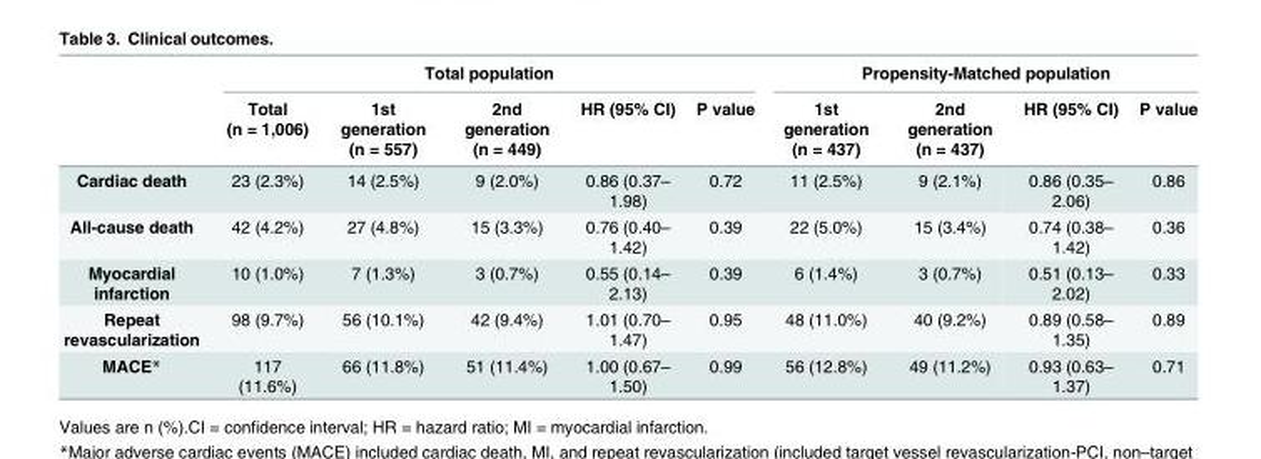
<table><thead><tr><td rowspan="2"></td><td colspan="5">Total population</td><td colspan="4">Propensity-Matched population</td></tr><tr><td>Total (n = 1,006)</td><td>1st generation (n = 557)</td><td>2nd generation (n = 449)</td><td>HR (95% CI)</td><td>P value</td><td>1st generation (n = 437)</td><td>2nd generation (n = 437)</td><td>HR (95% CI)</td><td>P value</td></tr></thead><tbody><tr><td>Cardiac death</td><td>23 (2.3%)</td><td>14 (2.5%)</td><td>9 (2.0%)</td><td>0.86 (0.37– 1.98)</td><td>0.72</td><td>11 (2.5%)</td><td>9 (2.1%)</td><td>0.86 (0.35– 2.06)</td><td>0.86</td></tr><tr><td>All-cause death</td><td>42 (4.2%)</td><td>27 (4.8%)</td><td>15 (3.3%)</td><td>0.76 (0.40– 1.42)</td><td>0.39</td><td>22 (5.0%)</td><td>15 (3.4%)</td><td>0.74 (0.38– 1.42)</td><td>0.36</td></tr><tr><td>Myocardial infarction</td><td>10 (1.0%)</td><td>7 (1.3%)</td><td>3 (0.7%)</td><td>0.55 (0.14– 2.13)</td><td>0.39</td><td>6 (1.4%)</td><td>3 (0.7%)</td><td>0.51 (0.13– 2.02)</td><td>0.33</td></tr><tr><td>Repeat revascularization</td><td>98 (9.7%)</td><td>56 (10.1%)</td><td>42 (9.4%)</td><td>1.01 (0.70– 1.47)</td><td>0.95</td><td>48 (11.0%)</td><td>40 (9.2%)</td><td>0.89 (0.58– 1.35)</td><td>0.89</td></tr><tr><td>MACE*</td><td>117 (11.6%)</td><td>66 (11.8%)</td><td>51 (11.4%)</td><td>1.00 (0.67– 1.50)</td><td>0.99</td><td>56 (12.8%)</td><td>49 (11.2%)</td><td>0.93 (0.63– 1.37)</td><td>0.71</td></tr></tbody></table>